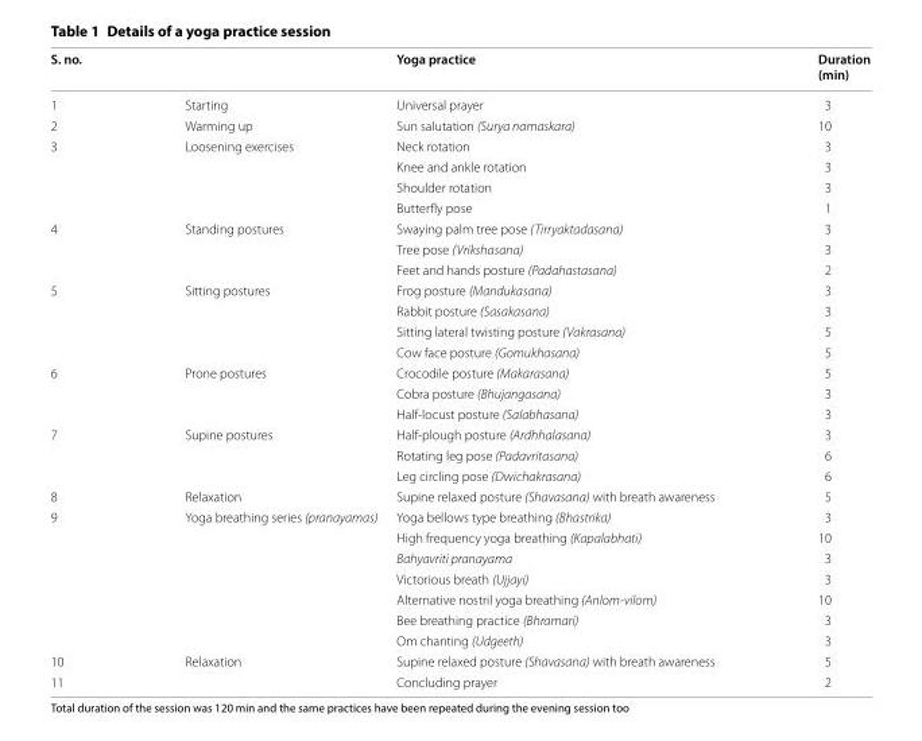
<table><thead><tr><td>S. no.</td><td></td><td>Yoga practice</td><td>Duration (min)</td></tr></thead><tbody><tr><td>1</td><td>Starting</td><td>Universal prayer</td><td>3</td></tr><tr><td>2</td><td>Warming up</td><td>Sun salutation (Surya namaskara)</td><td>10</td></tr><tr><td rowspan="4">3</td><td rowspan="4">Loosening exercises</td><td>Neck rotation</td><td>3</td></tr><tr><td>Knee and ankle rotation</td><td>3</td></tr><tr><td>Shoulder rotation</td><td>3</td></tr><tr><td>Butterfly pose</td><td>1</td></tr><tr><td rowspan="3">4</td><td rowspan="3">Standing postures</td><td>Swaying palm tree pose (Tirryaktadasana)</td><td>3</td></tr><tr><td>Tree pose (Vrikshasana)</td><td>3</td></tr><tr><td>Feet and hands posture (Padahastasana)</td><td>2</td></tr><tr><td rowspan="4">5</td><td rowspan="4">Sitting postures</td><td>Frog posture (Mandukasana)</td><td>3</td></tr><tr><td>Rabbit posture (Sasakasana)</td><td>3</td></tr><tr><td>Sitting lateral twisting posture (Vakrasana)</td><td>5</td></tr><tr><td>Cow face posture (Gomukhasana)</td><td>5</td></tr><tr><td rowspan="3">6</td><td rowspan="3">Prone postures</td><td>Crocodile posture (Makarasana)</td><td>5</td></tr><tr><td>Cobra posture (Bhujangasana)</td><td>3</td></tr><tr><td>Half-locust posture (Salabhasana)</td><td>3</td></tr><tr><td rowspan="3">7</td><td rowspan="3">Supine postures</td><td>Half-plough posture (Ardhhalasana)</td><td>3</td></tr><tr><td>Rotating leg pose (Padavritasana)</td><td>6</td></tr><tr><td>Leg circling pose (Dwichakrasana)</td><td>6</td></tr><tr><td>8</td><td>Relaxation</td><td>Supine relaxed posture (Shavasana) with breath awareness</td><td>5</td></tr><tr><td rowspan="7">9</td><td rowspan="7">Yoga breathing series (pranayamas)</td><td>Yoga bellows type breathing (Bhastrika)</td><td>3</td></tr><tr><td>High frequency yoga breathing (Kapalabhati)</td><td>10</td></tr><tr><td>Bahyavriti pranayama</td><td>3</td></tr><tr><td>Victorious breath (Ujjayi)</td><td>3</td></tr><tr><td>Alternative nostril yoga breathing (Anlom-vilom)</td><td>10</td></tr><tr><td>Bee breathing practice (Bhramari)</td><td>3</td></tr><tr><td>Om chanting (Udgeeth)</td><td>3</td></tr><tr><td>10</td><td>Relaxation</td><td>Supine relaxed posture (Shavasana) with breath awareness</td><td>5</td></tr><tr><td>11</td><td></td><td>Concluding prayer</td><td>2</td></tr></tbody></table>